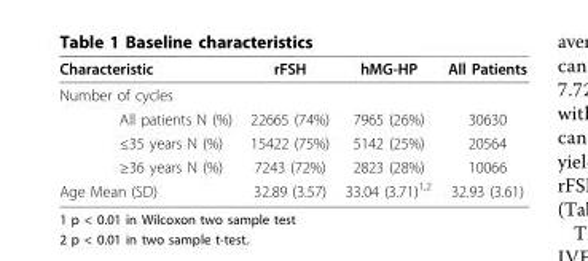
<table><thead><tr><td>Characteristic</td><td>rFSH</td><td>hMG-HP</td><td>All Patients</td></tr></thead><tbody><tr><td colspan="4">Number of cycles</td></tr><tr><td>All patients N (%)</td><td>22665 (74%)</td><td>7965 (26%)</td><td>30630</td></tr><tr><td>≤35 years N (%)</td><td>15422 (75%)</td><td>5142 (25%)</td><td>20564</td></tr><tr><td>≥36 years N (%)</td><td>7243 (72%)</td><td>2823 (28%)</td><td>10066</td></tr><tr><td>Age Mean (SD)</td><td>32.89 (3.57)</td><td>33.04 (3.71)<sup>1,2</sup></td><td>32.93 (3.61)</td></tr></tbody></table>